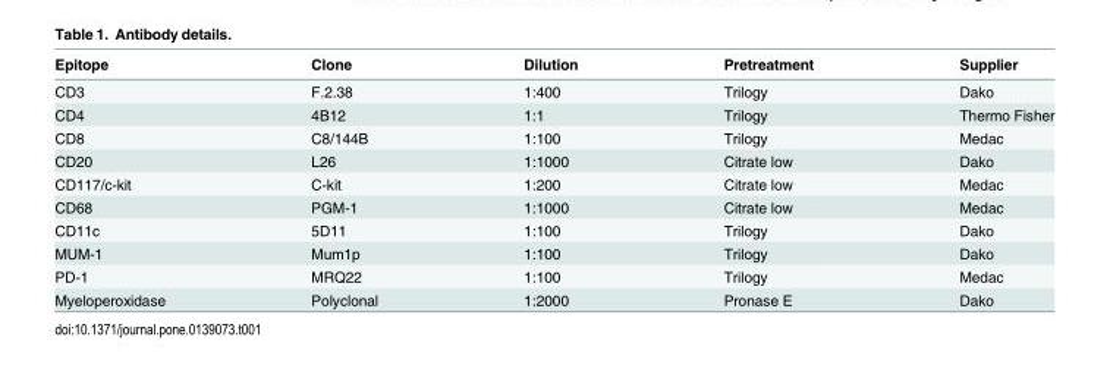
<table><thead><tr><td>Epitope</td><td>Clone</td><td>Dilution</td><td>Pretreatment</td><td>Supplier</td></tr></thead><tbody><tr><td>CD3</td><td>F.2.38</td><td>1:400</td><td>Trilogy</td><td>Dako</td></tr><tr><td>CD4</td><td>4B12</td><td>1:1</td><td>Trilogy</td><td>Thermo Fisher</td></tr><tr><td>CD8</td><td>C8/144B</td><td>1:100</td><td>Trilogy</td><td>Medac</td></tr><tr><td>CD20</td><td>L26</td><td>1:1000</td><td>Citrate low</td><td>Dako</td></tr><tr><td>CD117/c-kit</td><td>C-kit</td><td>1:200</td><td>Citrate low</td><td>Medac</td></tr><tr><td>CD68</td><td>PGM-1</td><td>1:1000</td><td>Citrate low</td><td>Medac</td></tr><tr><td>CD11c</td><td>5D11</td><td>1:100</td><td>Trilogy</td><td>Dako</td></tr><tr><td>MUM-1</td><td>Mum1p</td><td>1:100</td><td>Trilogy</td><td>Dako</td></tr><tr><td>PD-1</td><td>MRQ22</td><td>1:100</td><td>Trilogy</td><td>Medac</td></tr><tr><td>Myeloperoxidase</td><td>Polyclonal</td><td>1:2000</td><td>Pronase E</td><td>Dako</td></tr></tbody></table>